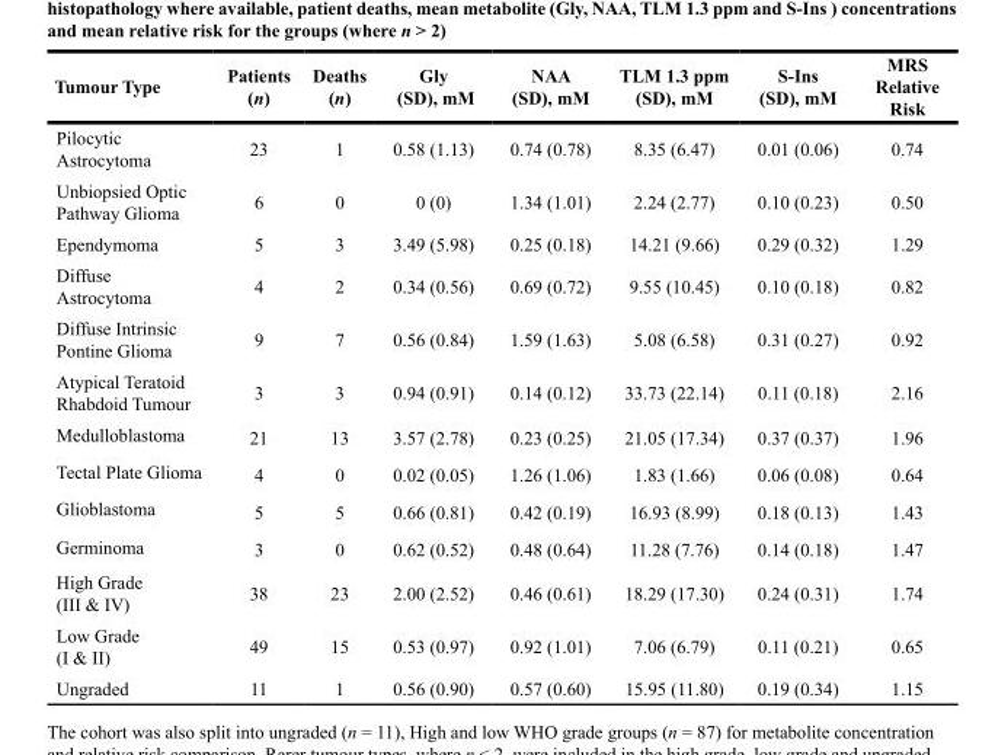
<table><thead><tr><td>Tumour Type</td><td>Patients (n)</td><td>Deaths (n)</td><td>Gly (SD), mM</td><td>NAA (SD), mM</td><td>TLM 1.3 ppm (SD), mM</td><td>S-Ins (SD), mM</td><td>MRS Relative Risk</td></tr></thead><tbody><tr><td>Pilocytic Astrocytoma</td><td>23</td><td>1</td><td>0.58 (1.13)</td><td>0.74 (0.78)</td><td>8.35 (6.47)</td><td>0.01 (0.06)</td><td>0.74</td></tr><tr><td>Unbiopsied Optic Pathway Glioma</td><td>6</td><td>0</td><td>0 (0)</td><td>1.34 (1.01)</td><td>2.24 (2.77)</td><td>0.10 (0.23)</td><td>0.50</td></tr><tr><td>Ependymoma</td><td>5</td><td>3</td><td>3.49 (5.98)</td><td>0.25 (0.18)</td><td>14.21 (9.66)</td><td>0.29 (0.32)</td><td>1.29</td></tr><tr><td>Diffuse Astrocytoma</td><td>4</td><td>2</td><td>0.34 (0.56)</td><td>0.69 (0.72)</td><td>9.55 (10.45)</td><td>0.10 (0.18)</td><td>0.82</td></tr><tr><td>Diffuse Intrinsic Pontine Glioma</td><td>9</td><td>7</td><td>0.56 (0.84)</td><td>1.59 (1.63)</td><td>5.08 (6.58)</td><td>0.31 (0.27)</td><td>0.92</td></tr><tr><td>Atypical Teratoid Rhabdoid Tumour</td><td>3</td><td>3</td><td>0.94 (0.91)</td><td>0.14 (0.12)</td><td>33.73 (22.14)</td><td>0.11 (0.18)</td><td>2.16</td></tr><tr><td>Medulloblastoma</td><td>21</td><td>13</td><td>3.57 (2.78)</td><td>0.23 (0.25)</td><td>21.05 (17.34)</td><td>0.37 (0.37)</td><td>1.96</td></tr><tr><td>Tectal Plate Glioma</td><td>4</td><td>0</td><td>0.02 (0.05)</td><td>1.26 (1.06)</td><td>1.83 (1.66)</td><td>0.06 (0.08)</td><td>0.64</td></tr><tr><td>Glioblastoma</td><td>5</td><td>5</td><td>0.66 (0.81)</td><td>0.42 (0.19)</td><td>16.93 (8.99)</td><td>0.18 (0.13)</td><td>1.43</td></tr><tr><td>Germinoma</td><td>3</td><td>0</td><td>0.62 (0.52)</td><td>0.48 (0.64)</td><td>11.28 (7.76)</td><td>0.14 (0.18)</td><td>1.47</td></tr><tr><td>High Grade (III &amp; IV)</td><td>38</td><td>23</td><td>2.00 (2.52)</td><td>0.46 (0.61)</td><td>18.29 (17.30)</td><td>0.24 (0.31)</td><td>1.74</td></tr><tr><td>Low Grade (I &amp; II)</td><td>49</td><td>15</td><td>0.53 (0.97)</td><td>0.92 (1.01)</td><td>7.06 (6.79)</td><td>0.11 (0.21)</td><td>0.65</td></tr><tr><td>Ungraded</td><td>11</td><td>1</td><td>0.56 (0.90)</td><td>0.57 (0.60)</td><td>15.95 (11.80)</td><td>0.19 (0.34)</td><td>1.15</td></tr></tbody></table>